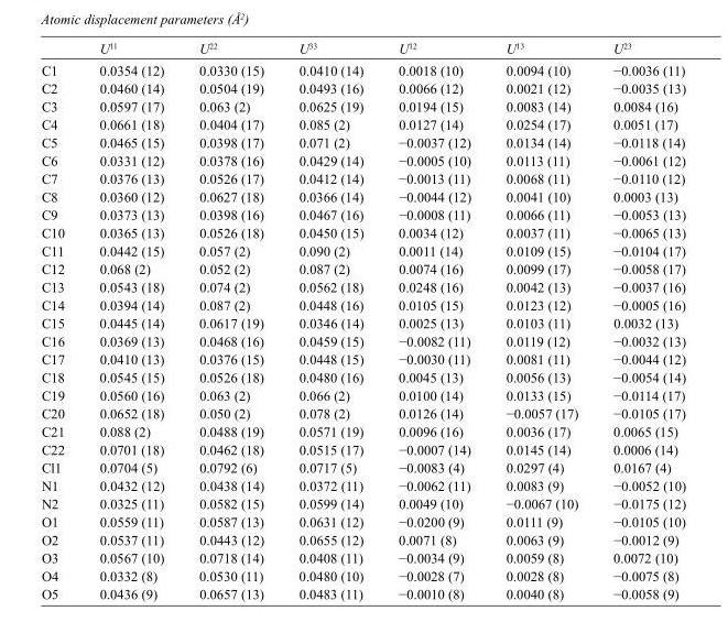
<table><thead><tr><td></td><td>U<sup>11</sup></td><td>U<sup>22</sup></td><td>U<sup>33</sup></td><td>U<sup>12</sup></td><td>U<sup>13</sup></td><td>U<sup>23</sup></td></tr></thead><tbody><tr><td>C1</td><td>0.0354 (12)</td><td>0.0330 (15)</td><td>0.0410 (14)</td><td>0.0018 (10)</td><td>0.0094 (10)</td><td>−0.0036 (11)</td></tr><tr><td>C2</td><td>0.0460 (14)</td><td>0.0504 (19)</td><td>0.0493 (16)</td><td>0.0066 (12)</td><td>0.0021 (12)</td><td>−0.0035 (13)</td></tr><tr><td>C3</td><td>0.0597 (17)</td><td>0.063 (2)</td><td>0.0625 (19)</td><td>0.0194 (15)</td><td>0.0083 (14)</td><td>0.0084 (16)</td></tr><tr><td>C4</td><td>0.0661 (18)</td><td>0.0404 (17)</td><td>0.085 (2)</td><td>0.0127 (14)</td><td>0.0254 (17)</td><td>0.0051 (17)</td></tr><tr><td>C5</td><td>0.0465 (15)</td><td>0.0398 (17)</td><td>0.071 (2)</td><td>−0.0037 (12)</td><td>0.0134 (14)</td><td>−0.0118 (14)</td></tr><tr><td>C6</td><td>0.0331 (12)</td><td>0.0378 (16)</td><td>0.0429 (14)</td><td>−0.0005 (10)</td><td>0.0113 (11)</td><td>−0.0061 (12)</td></tr><tr><td>C7</td><td>0.0376 (13)</td><td>0.0526 (17)</td><td>0.0412 (14)</td><td>−0.0013 (11)</td><td>0.0068 (11)</td><td>−0.0110 (12)</td></tr><tr><td>C8</td><td>0.0360 (12)</td><td>0.0627 (18)</td><td>0.0366 (14)</td><td>−0.0044 (12)</td><td>0.0041 (10)</td><td>0.0003 (13)</td></tr><tr><td>C9</td><td>0.0373 (13)</td><td>0.0398 (16)</td><td>0.0467 (16)</td><td>−0.0008 (11)</td><td>0.0066 (11)</td><td>−0.0053 (13)</td></tr><tr><td>C10</td><td>0.0365 (13)</td><td>0.0526 (18)</td><td>0.0450 (15)</td><td>0.0034 (12)</td><td>0.0037 (11)</td><td>−0.0065 (13)</td></tr><tr><td>C11</td><td>0.0442 (15)</td><td>0.057 (2)</td><td>0.090 (2)</td><td>0.0011 (14)</td><td>0.0109 (15)</td><td>−0.0104 (17)</td></tr><tr><td>C12</td><td>0.068 (2)</td><td>0.052 (2)</td><td>0.087 (2)</td><td>0.0074 (16)</td><td>0.0099 (17)</td><td>−0.0058 (17)</td></tr><tr><td>C13</td><td>0.0543 (18)</td><td>0.074 (2)</td><td>0.0562 (18)</td><td>0.0248 (16)</td><td>0.0042 (13)</td><td>−0.0037 (16)</td></tr><tr><td>C14</td><td>0.0394 (14)</td><td>0.087 (2)</td><td>0.0448 (16)</td><td>0.0105 (15)</td><td>0.0123 (12)</td><td>−0.0005 (16)</td></tr><tr><td>C15</td><td>0.0445 (14)</td><td>0.0617 (19)</td><td>0.0346 (14)</td><td>0.0025 (13)</td><td>0.0103 (11)</td><td>0.0032 (13)</td></tr><tr><td>C16</td><td>0.0369 (13)</td><td>0.0468 (16)</td><td>0.0459 (15)</td><td>−0.0082 (11)</td><td>0.0119 (12)</td><td>−0.0032 (13)</td></tr><tr><td>C17</td><td>0.0410 (13)</td><td>0.0376 (15)</td><td>0.0448 (15)</td><td>−0.0030 (11)</td><td>0.0081 (11)</td><td>−0.0044 (12)</td></tr><tr><td>C18</td><td>0.0545 (15)</td><td>0.0526 (18)</td><td>0.0480 (16)</td><td>0.0045 (13)</td><td>0.0056 (13)</td><td>−0.0054 (14)</td></tr><tr><td>C19</td><td>0.0560 (16)</td><td>0.063 (2)</td><td>0.066 (2)</td><td>0.0100 (14)</td><td>0.0133 (15)</td><td>−0.0114 (17)</td></tr><tr><td>C20</td><td>0.0652 (18)</td><td>0.050 (2)</td><td>0.078 (2)</td><td>0.0126 (14)</td><td>−0.0057 (17)</td><td>−0.0105 (17)</td></tr><tr><td>C21</td><td>0.088 (2)</td><td>0.0488 (19)</td><td>0.0571 (19)</td><td>0.0096 (16)</td><td>0.0036 (17)</td><td>0.0065 (15)</td></tr><tr><td>C22</td><td>0.0701 (18)</td><td>0.0462 (18)</td><td>0.0515 (17)</td><td>−0.0007 (14)</td><td>0.0145 (14)</td><td>0.0006 (14)</td></tr><tr><td>Cl1</td><td>0.0704 (5)</td><td>0.0792 (6)</td><td>0.0717 (5)</td><td>−0.0083 (4)</td><td>0.0297 (4)</td><td>0.0167 (4)</td></tr><tr><td>N1</td><td>0.0432 (12)</td><td>0.0438 (14)</td><td>0.0372 (11)</td><td>−0.0062 (11)</td><td>0.0083 (9)</td><td>−0.0052 (10)</td></tr><tr><td>N2</td><td>0.0325 (11)</td><td>0.0582 (15)</td><td>0.0599 (14)</td><td>0.0049 (10)</td><td>−0.0067 (10)</td><td>−0.0175 (12)</td></tr><tr><td>O1</td><td>0.0559 (11)</td><td>0.0587 (13)</td><td>0.0631 (12)</td><td>−0.0200 (9)</td><td>0.0111 (9)</td><td>−0.0105 (10)</td></tr><tr><td>O2</td><td>0.0537 (11)</td><td>0.0443 (12)</td><td>0.0655 (12)</td><td>0.0071 (8)</td><td>0.0063 (9)</td><td>−0.0012 (9)</td></tr><tr><td>O3</td><td>0.0567 (10)</td><td>0.0718 (14)</td><td>0.0408 (11)</td><td>−0.0034 (9)</td><td>0.0059 (8)</td><td>0.0072 (10)</td></tr><tr><td>O4</td><td>0.0332 (8)</td><td>0.0530 (11)</td><td>0.0480 (10)</td><td>−0.0028 (7)</td><td>0.0028 (8)</td><td>−0.0075 (8)</td></tr><tr><td>O5</td><td>0.0436 (9)</td><td>0.0657 (13)</td><td>0.0483 (11)</td><td>−0.0010 (8)</td><td>0.0040 (8)</td><td>−0.0058 (9)</td></tr></tbody></table>